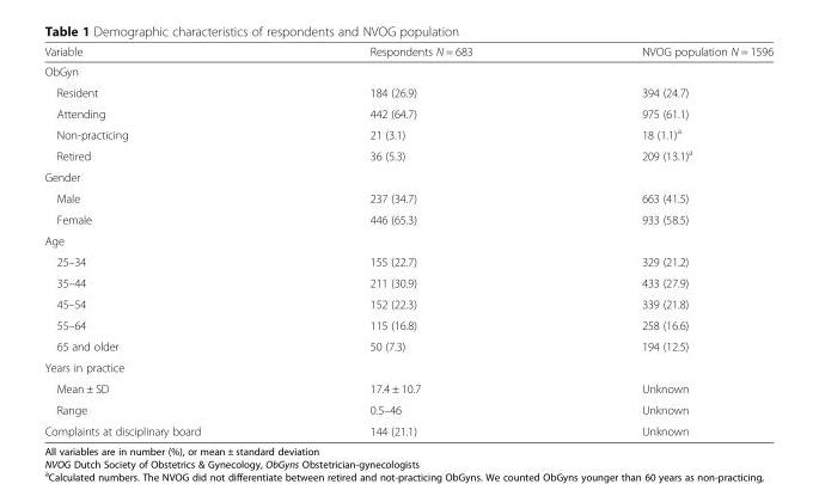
<table><thead><tr><td>Variable</td><td>Respondents N = 683</td><td>NVOG population N = 1596</td></tr></thead><tbody><tr><td colspan="3">ObGyn</td></tr><tr><td>Resident</td><td>184 (26.9)</td><td>394 (24.7)</td></tr><tr><td>Attending</td><td>442 (64.7)</td><td>975 (61.1)</td></tr><tr><td>Non-practicing</td><td>21 (3.1)</td><td>18 (1.1)<sup>a</sup></td></tr><tr><td>Retired</td><td>36 (5.3)</td><td>209 (13.1)<sup>a</sup></td></tr><tr><td colspan="3">Gender</td></tr><tr><td>Male</td><td>237 (34.7)</td><td>663 (41.5)</td></tr><tr><td>Female</td><td>446 (65.3)</td><td>933 (58.5)</td></tr><tr><td colspan="3">Age</td></tr><tr><td>25–34</td><td>155 (22.7)</td><td>329 (21.2)</td></tr><tr><td>35–44</td><td>211 (30.9)</td><td>433 (27.9)</td></tr><tr><td>45–54</td><td>152 (22.3)</td><td>339 (21.8)</td></tr><tr><td>55–64</td><td>115 (16.8)</td><td>258 (16.6)</td></tr><tr><td>65 and older</td><td>50 (7.3)</td><td>194 (12.5)</td></tr><tr><td colspan="3">Years in practice</td></tr><tr><td>Mean ± SD</td><td>17.4 ± 10.7</td><td>Unknown</td></tr><tr><td>Range</td><td>0.5–46</td><td>Unknown</td></tr><tr><td>Complaints at disciplinary board</td><td>144 (21.1)</td><td>Unknown</td></tr></tbody></table>